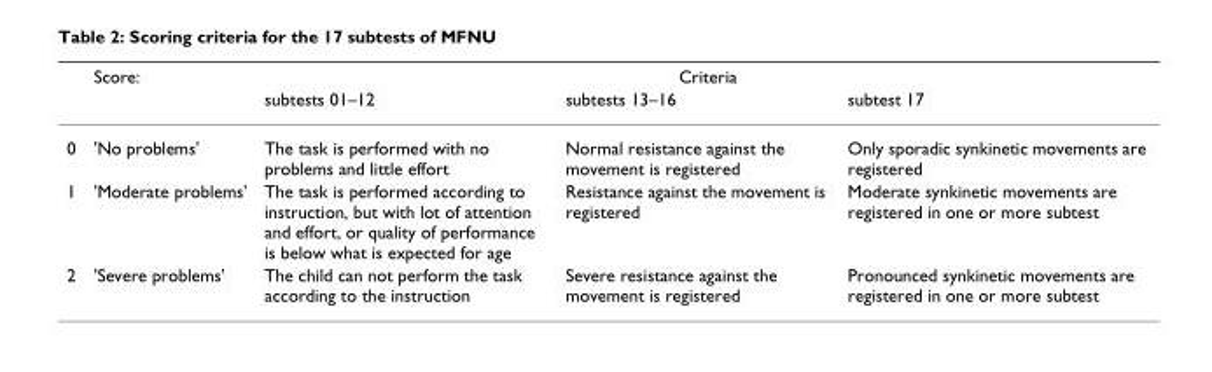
<table><thead><tr><td rowspan="2"></td><td rowspan="2">Score:</td><td colspan="3">Criteria</td></tr><tr><td>subtests 01–12</td><td>subtests 13–16</td><td>subtest 17</td></tr></thead><tbody><tr><td>0</td><td>&#x27;No problems&#x27;</td><td>The task is performed with no problems and little effort</td><td>Normal resistance against the movement is registered</td><td>Only sporadic synkinetic movements are registered</td></tr><tr><td>1</td><td>&#x27;Moderate problems&#x27;</td><td>The task is performed according to instruction, but with lot of attention and effort, or quality of performance is below what is expected for age</td><td>Resistance against the movement is registered</td><td>Moderate synkinetic movements are registered in one or more subtest</td></tr><tr><td>2</td><td>&#x27;Severe problems&#x27;</td><td>The child can not perform the task according to the instruction</td><td>Severe resistance against the movement is registered</td><td>Pronounced synkinetic movements are registered in one or more subtest</td></tr></tbody></table>